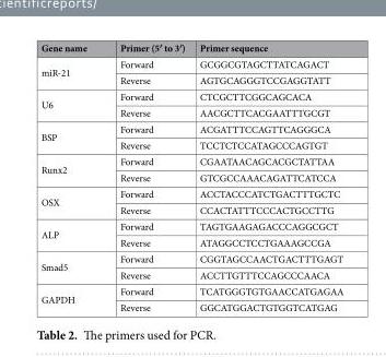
<table><thead><tr><td>Gene name</td><td>Primer (5′ to 3′)</td><td>Primer sequence</td></tr></thead><tbody><tr><td rowspan="2">miR-21</td><td>Forward</td><td>GCGGCGTAGCTTATCAGACT</td></tr><tr><td>Reverse</td><td>AGTGCAGGGTCCGAGGTATT</td></tr><tr><td rowspan="2">U6</td><td>Forward</td><td>CTCGCTTCGGCAGCACA</td></tr><tr><td>Reverse</td><td>AACGCTTCACGAATTTGCGT</td></tr><tr><td rowspan="2">BSP</td><td>Forward</td><td>ACGATTTCCAGTTCAGGGCA</td></tr><tr><td>Reverse</td><td>TCCTCTCCATAGCCCAGTGT</td></tr><tr><td rowspan="2">Runx2</td><td>Forward</td><td>CGAATAACAGCACGCTATTAA</td></tr><tr><td>Reverse</td><td>GTCGCCAAACAGATTCATCCA</td></tr><tr><td rowspan="2">OSX</td><td>Forward</td><td>ACCTACCCATCTGACTTTGCTC</td></tr><tr><td>Reverse</td><td>CCACTATTTCCCACTGCCTTG</td></tr><tr><td rowspan="2">ALP</td><td>Forward</td><td>TAGTGAAGAGACCCAGGCGCT</td></tr><tr><td>Reverse</td><td>ATAGGCCTCCTGAAAGCCGA</td></tr><tr><td rowspan="2">Smad5</td><td>Forward</td><td>CGGTAGCCAACTGACTTTGAGT</td></tr><tr><td>Reverse</td><td>ACCTTGTTTCCAGCCCAACA</td></tr><tr><td rowspan="2">GAPDH</td><td>Forward</td><td>TCATGGGTGTGAACCATGAGAA</td></tr><tr><td>Reverse</td><td>GGCATGGACTGTGGTCATGAG</td></tr></tbody></table>